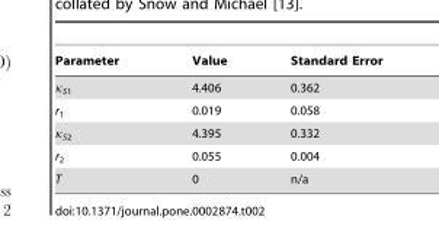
<table><thead><tr><td>Parameter</td><td>Value</td><td>Standard Error</td></tr></thead><tbody><tr><td>κ<sub>S1</sub></td><td>4.406</td><td>0.362</td></tr><tr><td>r<sub>1</sub></td><td>0.019</td><td>0.058</td></tr><tr><td>κ<sub>S2</sub></td><td>4.395</td><td>0.332</td></tr><tr><td>r<sub>2</sub></td><td>0.055</td><td>0.004</td></tr><tr><td>T</td><td>0</td><td>n/a</td></tr></tbody></table>